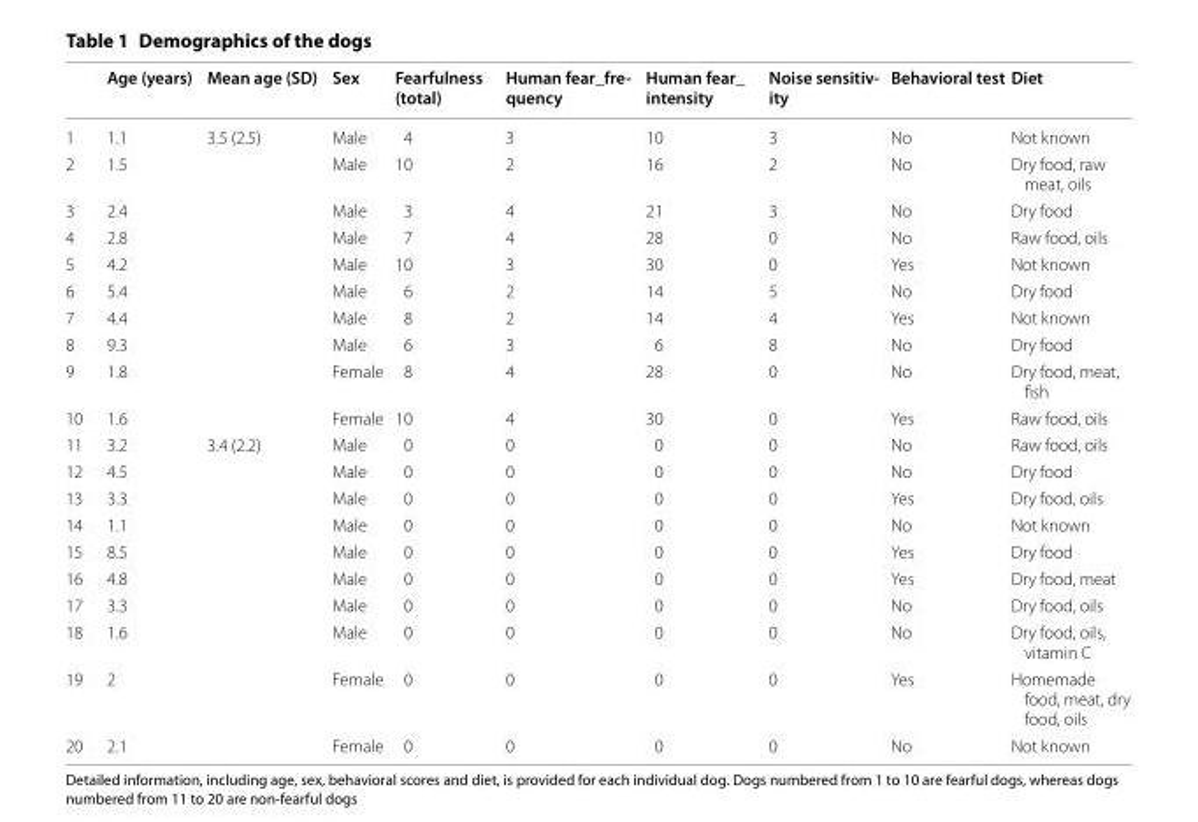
<table><thead><tr><td></td><td>Age (years)</td><td>Mean age (SD)</td><td>Sex</td><td>Fearfulness (total)</td><td>Human fear_fre‑ quency</td><td>Human fear_ intensity</td><td>Noise sensitiv‑ ity</td><td>Behavioral test</td><td>Diet</td></tr></thead><tbody><tr><td>1</td><td>1.1</td><td rowspan="10">3.5 (2.5)</td><td>Male</td><td>4</td><td>3</td><td>10</td><td>3</td><td>No</td><td>Not known</td></tr><tr><td>2</td><td>1.5</td><td>Male</td><td>10</td><td>2</td><td>16</td><td>2</td><td>No</td><td>Dry food, raw meat, oils</td></tr><tr><td>3</td><td>2.4</td><td>Male</td><td>3</td><td>4</td><td>21</td><td>3</td><td>No</td><td>Dry food</td></tr><tr><td>4</td><td>2.8</td><td>Male</td><td>7</td><td>4</td><td>28</td><td>0</td><td>No</td><td>Raw food, oils</td></tr><tr><td>5</td><td>4.2</td><td>Male</td><td>10</td><td>3</td><td>30</td><td>0</td><td>Yes</td><td>Not known</td></tr><tr><td>6</td><td>5.4</td><td>Male</td><td>6</td><td>2</td><td>14</td><td>5</td><td>No</td><td>Dry food</td></tr><tr><td>7</td><td>4.4</td><td>Male</td><td>8</td><td>2</td><td>14</td><td>4</td><td>Yes</td><td>Not known</td></tr><tr><td>8</td><td>9.3</td><td>Male</td><td>6</td><td>3</td><td>6</td><td>8</td><td>No</td><td>Dry food</td></tr><tr><td>9</td><td>1.8</td><td>Female</td><td>8</td><td>4</td><td>28</td><td>0</td><td>No</td><td>Dry food, meat, fish</td></tr><tr><td>10</td><td>1.6</td><td>Female</td><td>10</td><td>4</td><td>30</td><td>0</td><td>Yes</td><td>Raw food, oils</td></tr><tr><td>11</td><td>3.2</td><td rowspan="10">3.4 (2.2)</td><td>Male</td><td>0</td><td>0</td><td>0</td><td>0</td><td>No</td><td>Raw food, oils</td></tr><tr><td>12</td><td>4.5</td><td>Male</td><td>0</td><td>0</td><td>0</td><td>0</td><td>No</td><td>Dry food</td></tr><tr><td>13</td><td>3.3</td><td>Male</td><td>0</td><td>0</td><td>0</td><td>0</td><td>Yes</td><td>Dry food, oils</td></tr><tr><td>14</td><td>1.1</td><td>Male</td><td>0</td><td>0</td><td>0</td><td>0</td><td>No</td><td>Not known</td></tr><tr><td>15</td><td>8.5</td><td>Male</td><td>0</td><td>0</td><td>0</td><td>0</td><td>Yes</td><td>Dry food</td></tr><tr><td>16</td><td>4.8</td><td>Male</td><td>0</td><td>0</td><td>0</td><td>0</td><td>Yes</td><td>Dry food, meat</td></tr><tr><td>17</td><td>3.3</td><td>Male</td><td>0</td><td>0</td><td>0</td><td>0</td><td>No</td><td>Dry food, oils</td></tr><tr><td>18</td><td>1.6</td><td>Male</td><td>0</td><td>0</td><td>0</td><td>0</td><td>No</td><td>Dry food, oils, vitamin C</td></tr><tr><td>19</td><td>2</td><td>Female</td><td>0</td><td>0</td><td>0</td><td>0</td><td>Yes</td><td>Homemade food, meat, dry food, oils</td></tr><tr><td>20</td><td>2.1</td><td>Female</td><td>0</td><td>0</td><td>0</td><td>0</td><td>No</td><td>Not known</td></tr></tbody></table>